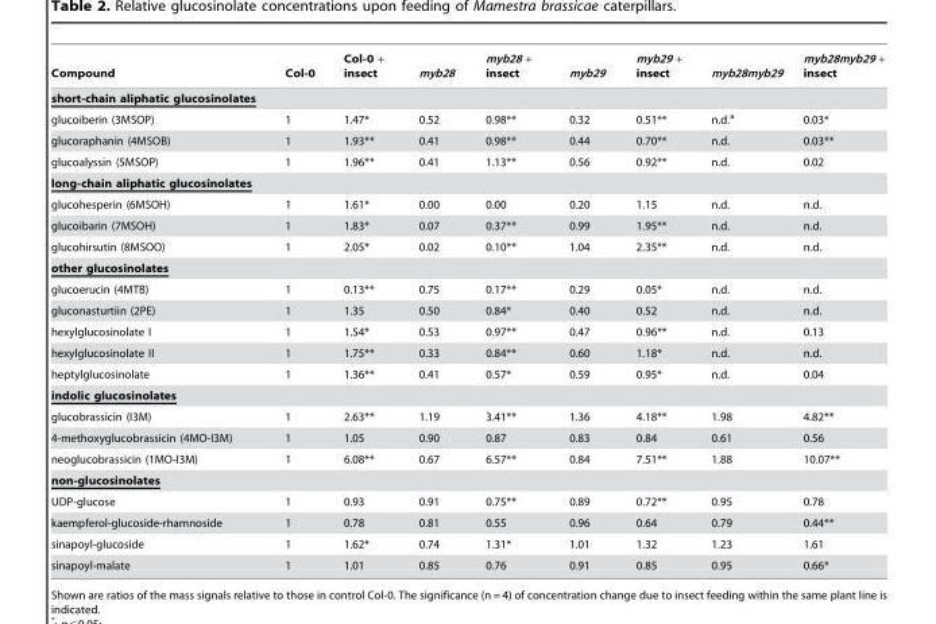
<table><thead><tr><td>Compound</td><td>Col-0</td><td>Col-0 + insect</td><td>myb28</td><td>myb28 + insect</td><td>myb29</td><td>myb29 + insect</td><td>myb28myb29</td><td>myb28myb29 + insect</td></tr></thead><tbody><tr><td colspan="9">short-chain aliphatic glucosinolates</td></tr><tr><td>glucoiberin (3MSOP)</td><td>1</td><td>1.47*</td><td>0.52</td><td>0.98**</td><td>0.32</td><td>0.51**</td><td>n.d.<sup>a</sup></td><td>0.03*</td></tr><tr><td>glucoraphanin (4MSOB)</td><td>1</td><td>1.93**</td><td>0.41</td><td>0.98**</td><td>0.44</td><td>0.70**</td><td>n.d.</td><td>0.03**</td></tr><tr><td>glucoalyssin (5MSOP)</td><td>1</td><td>1.96**</td><td>0.41</td><td>1.13**</td><td>0.56</td><td>0.92**</td><td>n.d.</td><td>0.02</td></tr><tr><td colspan="9">long-chain aliphatic glucosinolates</td></tr><tr><td>glucohesperin (6MSOH)</td><td>1</td><td>1.61*</td><td>0.00</td><td>0.00</td><td>0.20</td><td>1.15</td><td>n.d.</td><td>n.d.</td></tr><tr><td>glucoibarin (7MSOH)</td><td>1</td><td>1.83*</td><td>0.07</td><td>0.37**</td><td>0.99</td><td>1.95**</td><td>n.d.</td><td>n.d.</td></tr><tr><td>glucohirsutin (8MSOO)</td><td>1</td><td>2.05*</td><td>0.02</td><td>0.10**</td><td>1.04</td><td>2.35**</td><td>n.d.</td><td>n.d.</td></tr><tr><td colspan="9">other glucosinolates</td></tr><tr><td>glucoerucin (4MTB)</td><td>1</td><td>0.13**</td><td>0.75</td><td>0.17**</td><td>0.29</td><td>0.05*</td><td>n.d.</td><td>n.d.</td></tr><tr><td>gluconasturtiin (2PE)</td><td>1</td><td>1.35</td><td>0.50</td><td>0.84*</td><td>0.40</td><td>0.52</td><td>n.d.</td><td>n.d.</td></tr><tr><td>hexylglucosinolate I</td><td>1</td><td>1.54*</td><td>0.53</td><td>0.97**</td><td>0.47</td><td>0.96**</td><td>n.d.</td><td>0.13</td></tr><tr><td>hexylglucosinolate II</td><td>1</td><td>1.75**</td><td>0.33</td><td>0.84**</td><td>0.60</td><td>1.18*</td><td>n.d.</td><td>n.d.</td></tr><tr><td>heptylglucosinolate</td><td>1</td><td>1.36**</td><td>0.41</td><td>0.57*</td><td>0.59</td><td>0.95*</td><td>n.d.</td><td>0.04</td></tr><tr><td colspan="9">indolic glucosinolates</td></tr><tr><td>glucobrassicin (I3M)</td><td>1</td><td>2.63**</td><td>1.19</td><td>3.41**</td><td>1.36</td><td>4.18**</td><td>1.98</td><td>4.82**</td></tr><tr><td>4-methoxyglucobrassicin (4MO-I3M)</td><td>1</td><td>1.05</td><td>0.90</td><td>0.87</td><td>0.83</td><td>0.84</td><td>0.61</td><td>0.56</td></tr><tr><td>neoglucobrassicin (1MO-I3M)</td><td>1</td><td>6.08**</td><td>0.67</td><td>6.57**</td><td>0.84</td><td>7.51**</td><td>1.88</td><td>10.07**</td></tr><tr><td colspan="9">non-glucosinolates</td></tr><tr><td>UDP-glucose</td><td>1</td><td>0.93</td><td>0.91</td><td>0.75**</td><td>0.89</td><td>0.72**</td><td>0.95</td><td>0.78</td></tr><tr><td>kaempferol-glucoside-rhamnoside</td><td>1</td><td>0.78</td><td>0.81</td><td>0.55</td><td>0.96</td><td>0.64</td><td>0.79</td><td>0.44**</td></tr><tr><td>sinapoyl-glucoside</td><td>1</td><td>1.62*</td><td>0.74</td><td>1.31*</td><td>1.01</td><td>1.32</td><td>1.23</td><td>1.61</td></tr><tr><td>sinapoyl-malate</td><td>1</td><td>1.01</td><td>0.85</td><td>0.76</td><td>0.91</td><td>0.85</td><td>0.95</td><td>0.66*</td></tr></tbody></table>